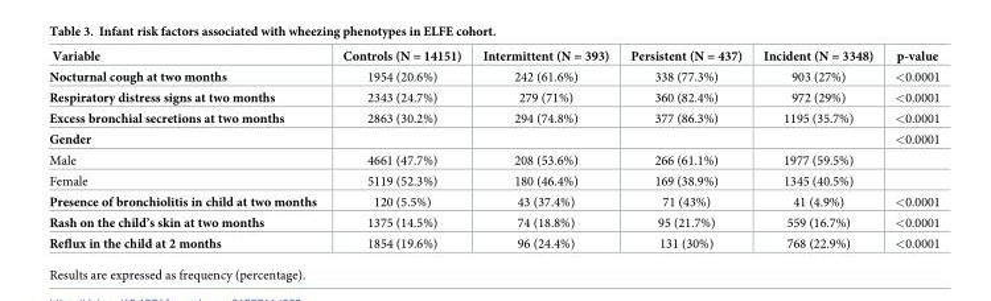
<table><thead><tr><td>Variable</td><td>Controls (N = 14151)</td><td>Intermittent (N = 393)</td><td>Persistent (N = 437)</td><td>Incident (N = 3348)</td><td>p-value</td></tr></thead><tbody><tr><td>Nocturnal cough at two months</td><td>1954 (20.6%)</td><td>242 (61.6%)</td><td>338 (77.3%)</td><td>903 (27%)</td><td>&lt;0.0001</td></tr><tr><td>Respiratory distress signs at two months</td><td>2343 (24.7%)</td><td>279 (71%)</td><td>360 (82.4%)</td><td>972 (29%)</td><td>&lt;0.0001</td></tr><tr><td>Excess bronchial secretions at two months</td><td>2863 (30.2%)</td><td>294 (74.8%)</td><td>377 (86.3%)</td><td>1195 (35.7%)</td><td>&lt;0.0001</td></tr><tr><td>Gender</td><td></td><td></td><td></td><td></td><td>&lt;0.0001</td></tr><tr><td>Male</td><td>4661 (47.7%)</td><td>208 (53.6%)</td><td>266 (61.1%)</td><td>1977 (59.5%)</td><td></td></tr><tr><td>Female</td><td>5119 (52.3%)</td><td>180 (46.4%)</td><td>169 (38.9%)</td><td>1345 (40.5%)</td><td></td></tr><tr><td>Presence of bronchiolitis in child at two months</td><td>120 (5.5%)</td><td>43 (37.4%)</td><td>71 (43%)</td><td>41 (4.9%)</td><td>&lt;0.0001</td></tr><tr><td>Rash on the child’s skin at two months</td><td>1375 (14.5%)</td><td>74 (18.8%)</td><td>95 (21.7%)</td><td>559 (16.7%)</td><td>&lt;0.0001</td></tr><tr><td>Reflux in the child at 2 months</td><td>1854 (19.6%)</td><td>96 (24.4%)</td><td>131 (30%)</td><td>768 (22.9%)</td><td>&lt;0.0001</td></tr></tbody></table>